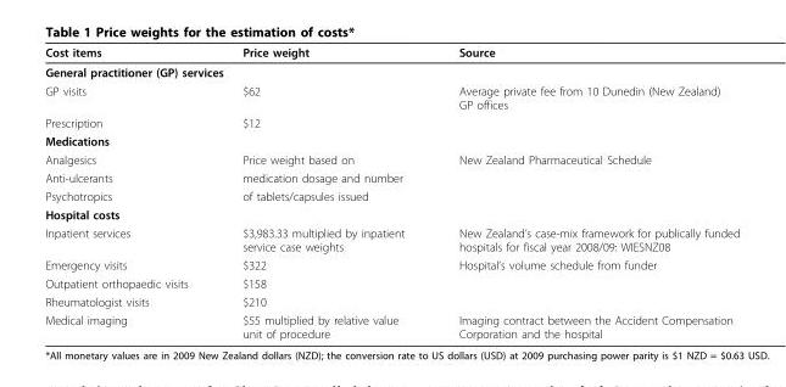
<table><thead><tr><td>Cost items</td><td>Price weight</td><td>Source</td></tr></thead><tbody><tr><td colspan="3">General practitioner (GP) services</td></tr><tr><td>GP visits</td><td>$62</td><td>Average private fee from 10 Dunedin (New Zealand) GP offices</td></tr><tr><td>Prescription</td><td>$12</td><td></td></tr><tr><td colspan="3">Medications</td></tr><tr><td>Analgesics</td><td>Price weight based on</td><td>New Zealand Pharmaceutical Schedule</td></tr><tr><td>Anti-ulcerants</td><td>medication dosage and number</td><td></td></tr><tr><td>Psychotropics</td><td>of tablets/capsules issued</td><td></td></tr><tr><td colspan="3">Hospital costs</td></tr><tr><td>Inpatient services</td><td>$3,983.33 multiplied by inpatient service case weights</td><td>New Zealand’s case-mix framework for publically funded hospitals for fiscal year 2008/09: WIESNZ08</td></tr><tr><td>Emergency visits</td><td>$322</td><td>Hospital’s volume schedule from funder</td></tr><tr><td>Outpatient orthopaedic visits</td><td>$158</td><td></td></tr><tr><td>Rheumatologist visits</td><td>$210</td><td></td></tr><tr><td>Medical imaging</td><td>$55 multiplied by relative value unit of procedure</td><td>Imaging contract between the Accident Compensation Corporation and the hospital</td></tr></tbody></table>